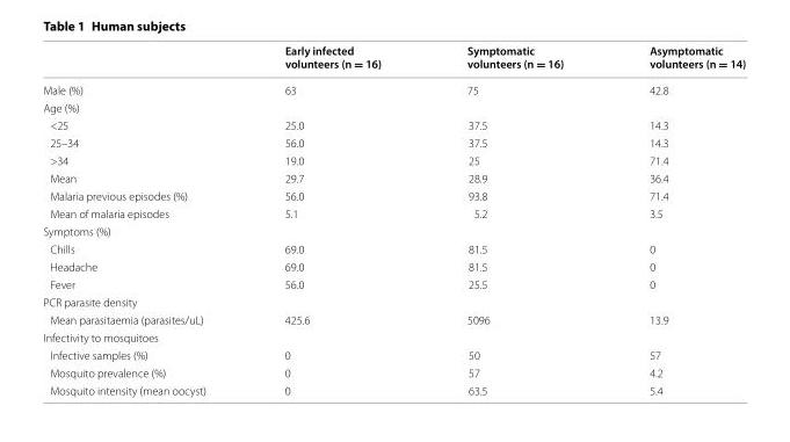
<table><thead><tr><td></td><td>Early infected volunteers (n = 16)</td><td>Symptomatic volunteers (n = 16)</td><td>Asymptomatic volunteers (n = 14)</td></tr></thead><tbody><tr><td>Male (%)</td><td>63</td><td>75</td><td>42.8</td></tr><tr><td colspan="4">Age (%)</td></tr><tr><td>&lt;25</td><td>25.0</td><td>37.5</td><td>14.3</td></tr><tr><td>25–34</td><td>56.0</td><td>37.5</td><td>14.3</td></tr><tr><td>&gt;34</td><td>19.0</td><td>25</td><td>71.4</td></tr><tr><td>Mean</td><td>29.7</td><td>28.9</td><td>36.4</td></tr><tr><td>Malaria previous episodes (%)</td><td>56.0</td><td>93.8</td><td>71.4</td></tr><tr><td>Mean of malaria episodes</td><td>5.1</td><td>5.2</td><td>3.5</td></tr><tr><td colspan="4">Symptoms (%)</td></tr><tr><td>Chills</td><td>69.0</td><td>81.5</td><td>0</td></tr><tr><td>Headache</td><td>69.0</td><td>81.5</td><td>0</td></tr><tr><td>Fever</td><td>56.0</td><td>25.5</td><td>0</td></tr><tr><td colspan="4">PCR parasite density</td></tr><tr><td>Mean parasitaemia (parasites/uL)</td><td>425.6</td><td>5096</td><td>13.9</td></tr><tr><td colspan="4">Infectivity to mosquitoes</td></tr><tr><td>Infective samples (%)</td><td>0</td><td>50</td><td>57</td></tr><tr><td>Mosquito prevalence (%)</td><td>0</td><td>57</td><td>4.2</td></tr><tr><td>Mosquito intensity (mean oocyst)</td><td>0</td><td>63.5</td><td>5.4</td></tr></tbody></table>